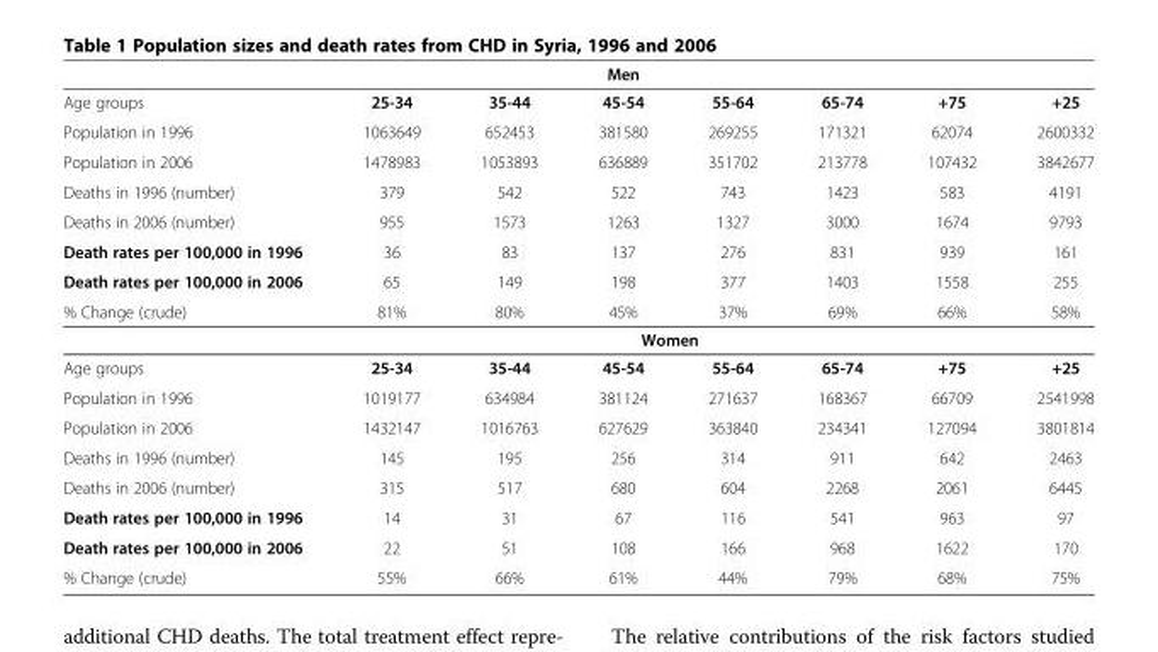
<table><thead><tr><td></td><td></td><td></td><td>Men</td><td></td><td></td><td></td><td></td></tr></thead><tbody><tr><td>Age groups</td><td>25-34</td><td>35-44</td><td>45-54</td><td>55-64</td><td>65-74</td><td>+75</td><td>+25</td></tr><tr><td>Population in 1996</td><td>1063649</td><td>652453</td><td>381580</td><td>269255</td><td>171321</td><td>62074</td><td>2600332</td></tr><tr><td>Population in 2006</td><td>1478983</td><td>1053893</td><td>636889</td><td>351702</td><td>213778</td><td>107432</td><td>3842677</td></tr><tr><td>Deaths in 1996 (number)</td><td>379</td><td>542</td><td>522</td><td>743</td><td>1423</td><td>583</td><td>4191</td></tr><tr><td>Deaths in 2006 (number)</td><td>955</td><td>1573</td><td>1263</td><td>1327</td><td>3000</td><td>1674</td><td>9793</td></tr><tr><td>Death rates per 100,000 in 1996</td><td>36</td><td>83</td><td>137</td><td>276</td><td>831</td><td>939</td><td>161</td></tr><tr><td>Death rates per 100,000 in 2006</td><td>65</td><td>149</td><td>198</td><td>377</td><td>1403</td><td>1558</td><td>255</td></tr><tr><td rowspan="2">% Change (crude)</td><td>81%</td><td>80%</td><td>45%</td><td>37%</td><td>69%</td><td>66%</td><td>58%</td></tr><tr><td colspan="6">Women</td><td></td></tr><tr><td>Age groups</td><td>25-34</td><td>35-44</td><td>45-54</td><td>55-64</td><td>65-74</td><td>+75</td><td>+25</td></tr><tr><td>Population in 1996</td><td>1019177</td><td>634984</td><td>381124</td><td>271637</td><td>168367</td><td>66709</td><td>2541998</td></tr><tr><td>Population in 2006</td><td>1432147</td><td>1016763</td><td>627629</td><td>363840</td><td>234341</td><td>127094</td><td>3801814</td></tr><tr><td>Deaths in 1996 (number)</td><td>145</td><td>195</td><td>256</td><td>314</td><td>911</td><td>642</td><td>2463</td></tr><tr><td>Deaths in 2006 (number)</td><td>315</td><td>517</td><td>680</td><td>604</td><td>2268</td><td>2061</td><td>6445</td></tr><tr><td>Death rates per 100,000 in 1996</td><td>14</td><td>31</td><td>67</td><td>116</td><td>541</td><td>963</td><td>97</td></tr><tr><td>Death rates per 100,000 in 2006</td><td>22</td><td>51</td><td>108</td><td>166</td><td>968</td><td>1622</td><td>170</td></tr><tr><td>% Change (crude)</td><td>55%</td><td>66%</td><td>61%</td><td>44%</td><td>79%</td><td>68%</td><td>75%</td></tr></tbody></table>